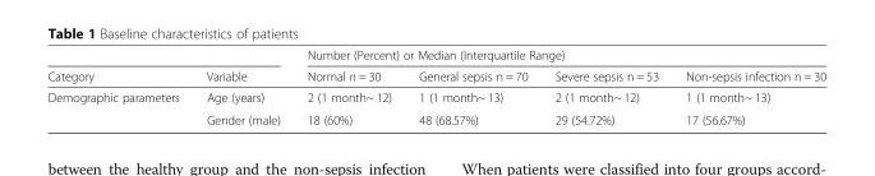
<table><thead><tr><td rowspan="2">Category</td><td rowspan="2">Variable</td><td colspan="4">Number (Percent) or Median (Interquartile Range)</td></tr><tr><td>Normal n = 30</td><td>General sepsis n = 70</td><td>Severe sepsis n = 53</td><td>Non-sepsis infection n = 30</td></tr></thead><tbody><tr><td rowspan="2">Demographic parameters</td><td>Age (years)</td><td>2 (1 month~ 12)</td><td>1 (1 month~ 13)</td><td>2 (1 month~ 12)</td><td>1 (1 month~ 13)</td></tr><tr><td>Gender (male)</td><td>18 (60%)</td><td>48 (68.57%)</td><td>29 (54.72%)</td><td>17 (56.67%)</td></tr></tbody></table>